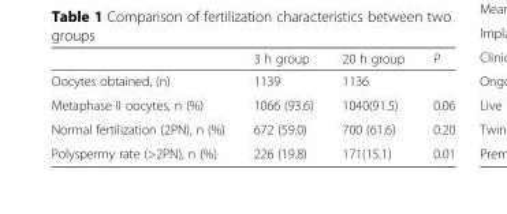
<table><thead><tr><td></td><td>3 h group</td><td>20 h group</td><td>P</td></tr></thead><tbody><tr><td>Oocytes obtained, (n)</td><td>1139</td><td>1136</td><td></td></tr><tr><td>Metaphase II oocytes, n (%)</td><td>1066 (93.6)</td><td>1040(91.5)</td><td>0.06</td></tr><tr><td>Normal fertilization (2PN), n (%)</td><td>672 (59.0)</td><td>700 (61.6)</td><td>0.20</td></tr><tr><td>Polyspermy rate (&gt;2PN), n (%)</td><td>226 (19.8)</td><td>171(15.1)</td><td>0.01</td></tr></tbody></table>